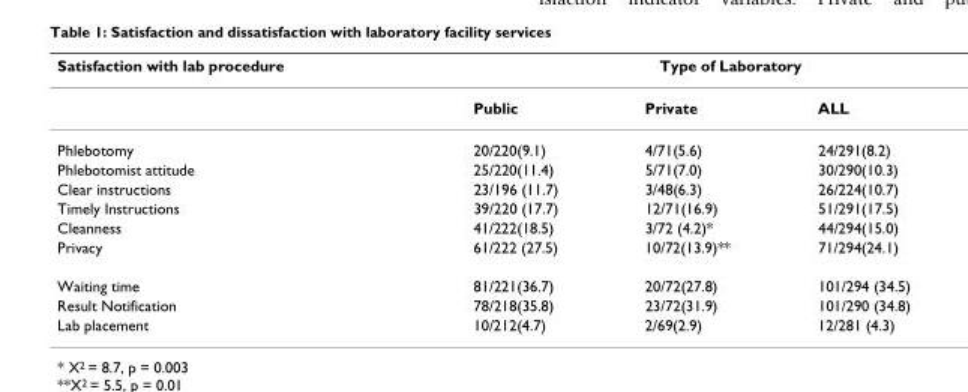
<table><thead><tr><td rowspan="2">Satisfaction with lab procedure</td><td colspan="3">Type of Laboratory</td></tr><tr><td>Public</td><td>Private</td><td>ALL</td></tr></thead><tbody><tr><td>Phlebotomy</td><td>20/220(9.1)</td><td>4/71(5.6)</td><td>24/291(8.2)</td></tr><tr><td>Phlebotomist attitude</td><td>25/220(11.4)</td><td>5/71(7.0)</td><td>30/290(10.3)</td></tr><tr><td>Clear instructions</td><td>23/196 (11.7)</td><td>3/48(6.3)</td><td>26/224(10.7)</td></tr><tr><td>Timely Instructions</td><td>39/220 (17.7)</td><td>12/71(16.9)</td><td>51/291(17.5)</td></tr><tr><td>Cleanness</td><td>41/222(18.5)</td><td>3/72 (4.2)*</td><td>44/294(15.0)</td></tr><tr><td>Privacy</td><td>61/222 (27.5)</td><td>10/72(13.9)**</td><td>71/294(24.1)</td></tr><tr><td>Waiting time</td><td>81/221(36.7)</td><td>20/72(27.8)</td><td>101/294 (34.5)</td></tr><tr><td>Result Notification</td><td>78/218(35.8)</td><td>23/72(31.9)</td><td>101/290 (34.8)</td></tr><tr><td>Lab placement</td><td>10/212(4.7)</td><td>2/69(2.9)</td><td>12/281 (4.3)</td></tr></tbody></table>